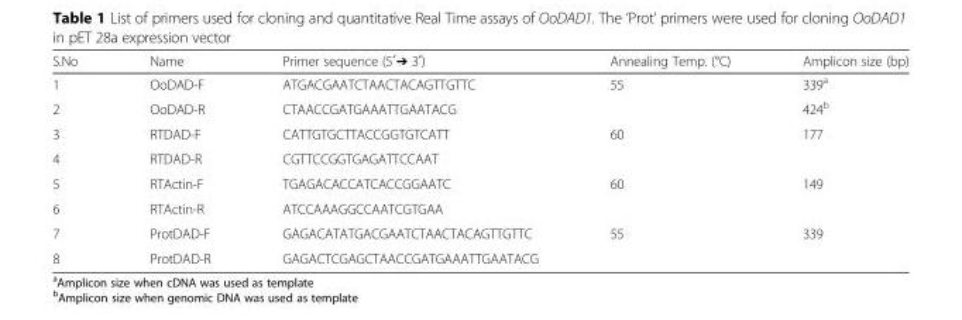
<table><thead><tr><td>S.No</td><td>Name</td><td>Primer sequence (5′➔ 3′)</td><td>Annealing Temp. (°C)</td><td>Amplicon size (bp)</td></tr></thead><tbody><tr><td>1</td><td>OoDAD-F</td><td>ATGACGAATCTAACTACAGTTGTTC</td><td>55</td><td>339<sup>a</sup></td></tr><tr><td>2</td><td>OoDAD-R</td><td>CTAACCGATGAAATTGAATACG</td><td></td><td>424<sup>b</sup></td></tr><tr><td>3</td><td>RTDAD-F</td><td>CATTGTGCTTACCGGTGTCATT</td><td>60</td><td>177</td></tr><tr><td>4</td><td>RTDAD-R</td><td>CGTTCCGGTGAGATTCCAAT</td><td></td><td></td></tr><tr><td>5</td><td>RTActin-F</td><td>TGAGACACCATCACCGGAATC</td><td>60</td><td>149</td></tr><tr><td>6</td><td>RTActin-R</td><td>ATCCAAAGGCCAATCGTGAA</td><td></td><td></td></tr><tr><td>7</td><td>ProtDAD-F</td><td>GAGACATATGACGAATCTAACTACAGTTGTTC</td><td>55</td><td>339</td></tr><tr><td>8</td><td>ProtDAD-R</td><td>GAGACTCGAGCTAACCGATGAAATTGAATACG</td><td></td><td></td></tr></tbody></table>